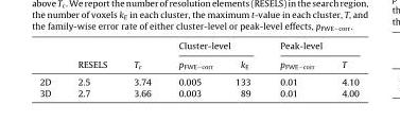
<table><thead><tr><td rowspan="2"></td><td rowspan="2">RESELS</td><td rowspan="2">T<sub>c</sub></td><td colspan="2">Cluster-level</td><td colspan="2">Peak-level</td></tr><tr><td>p<sub>FWE−corr</sub></td><td>k<sub>E</sub></td><td>p<sub>FWE−corr</sub></td><td>T</td></tr></thead><tbody><tr><td>2D</td><td>2.5</td><td>3.74</td><td>0.005</td><td>133</td><td>0.01</td><td>4.10</td></tr><tr><td>3D</td><td>2.7</td><td>3.66</td><td>0.003</td><td>89</td><td>0.01</td><td>4.00</td></tr></tbody></table>